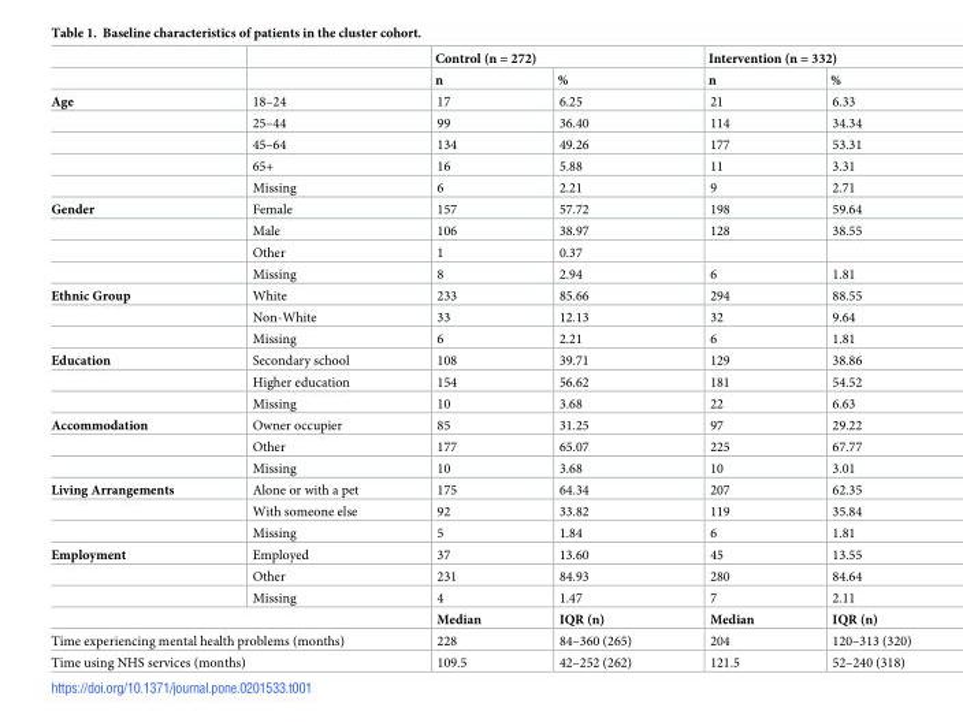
<table><thead><tr><td rowspan="2"></td><td rowspan="2"></td><td colspan="2">Control (n = 272)</td><td colspan="2">Intervention (n = 332)</td></tr><tr><td>n</td><td>%</td><td>n</td><td>%</td></tr></thead><tbody><tr><td rowspan="5">Age</td><td>18–24</td><td>17</td><td>6.25</td><td>21</td><td>6.33</td></tr><tr><td>25–44</td><td>99</td><td>36.40</td><td>114</td><td>34.34</td></tr><tr><td>45–64</td><td>134</td><td>49.26</td><td>177</td><td>53.31</td></tr><tr><td>65+</td><td>16</td><td>5.88</td><td>11</td><td>3.31</td></tr><tr><td>Missing</td><td>6</td><td>2.21</td><td>9</td><td>2.71</td></tr><tr><td rowspan="4">Gender</td><td>Female</td><td>157</td><td>57.72</td><td>198</td><td>59.64</td></tr><tr><td>Male</td><td>106</td><td>38.97</td><td>128</td><td>38.55</td></tr><tr><td>Other</td><td>1</td><td>0.37</td><td></td><td></td></tr><tr><td>Missing</td><td>8</td><td>2.94</td><td>6</td><td>1.81</td></tr><tr><td rowspan="3">Ethnic Group</td><td>White</td><td>233</td><td>85.66</td><td>294</td><td>88.55</td></tr><tr><td>Non-White</td><td>33</td><td>12.13</td><td>32</td><td>9.64</td></tr><tr><td>Missing</td><td>6</td><td>2.21</td><td>6</td><td>1.81</td></tr><tr><td rowspan="3">Education</td><td>Secondary school</td><td>108</td><td>39.71</td><td>129</td><td>38.86</td></tr><tr><td>Higher education</td><td>154</td><td>56.62</td><td>181</td><td>54.52</td></tr><tr><td>Missing</td><td>10</td><td>3.68</td><td>22</td><td>6.63</td></tr><tr><td rowspan="3">Accommodation</td><td>Owner occupier</td><td>85</td><td>31.25</td><td>97</td><td>29.22</td></tr><tr><td>Other</td><td>177</td><td>65.07</td><td>225</td><td>67.77</td></tr><tr><td>Missing</td><td>10</td><td>3.68</td><td>10</td><td>3.01</td></tr><tr><td rowspan="3">Living Arrangements</td><td>Alone or with a pet</td><td>175</td><td>64.34</td><td>207</td><td>62.35</td></tr><tr><td>With someone else</td><td>92</td><td>33.82</td><td>119</td><td>35.84</td></tr><tr><td>Missing</td><td>5</td><td>1.84</td><td>6</td><td>1.81</td></tr><tr><td rowspan="3">Employment</td><td>Employed</td><td>37</td><td>13.60</td><td>45</td><td>13.55</td></tr><tr><td>Other</td><td>231</td><td>84.93</td><td>280</td><td>84.64</td></tr><tr><td>Missing</td><td>4</td><td>1.47</td><td>7</td><td>2.11</td></tr><tr><td colspan="2"></td><td>Median</td><td>IQR (n)</td><td>Median</td><td>IQR (n)</td></tr><tr><td colspan="2">Time experiencing mental health problems (months)</td><td>228</td><td>84–360 (265)</td><td>204</td><td>120–313 (320)</td></tr><tr><td colspan="2">Time using NHS services (months)</td><td>109.5</td><td>42–252 (262)</td><td>121.5</td><td>52–240 (318)</td></tr></tbody></table>